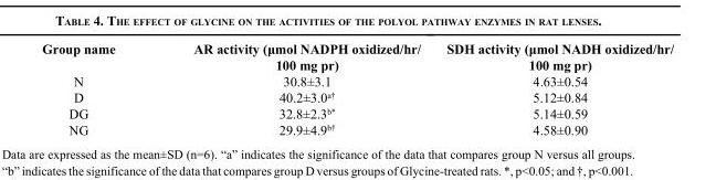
<table><thead><tr><td>Group name</td><td>AR activity (μmol NADPH oxidized/hr/ 100 mg pr)</td><td>SDH activity (μmol NADH oxidized/hr/ 100 mg pr)</td></tr></thead><tbody><tr><td>N</td><td>30.8±3.1</td><td>4.63±0.54</td></tr><tr><td>D</td><td>40.2±3.0<sup>a†</sup></td><td>5.12±0.84</td></tr><tr><td>DG</td><td>32.8±2.3<sup>b*</sup></td><td>5.14±0.59</td></tr><tr><td>NG</td><td>29.9±4.9<sup>b†</sup></td><td>4.58±0.90</td></tr></tbody></table>